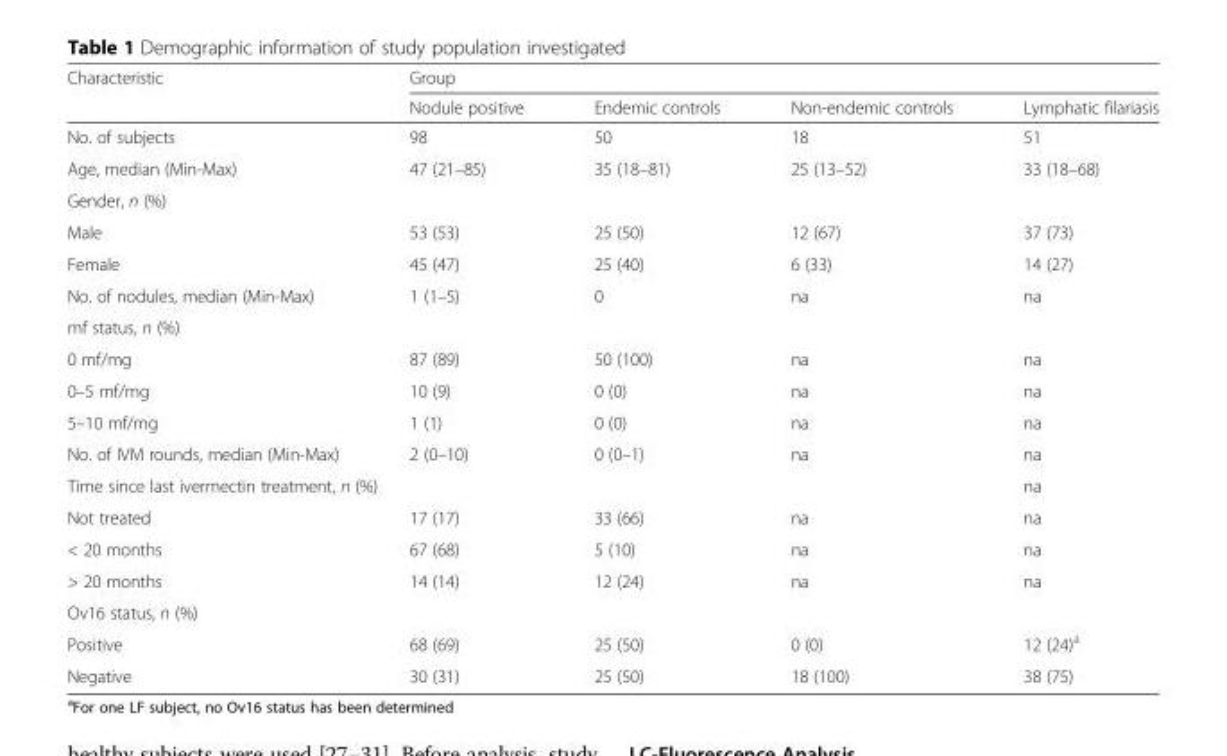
<table><thead><tr><td rowspan="2">Characteristic</td><td colspan="4">Group</td></tr><tr><td>Nodule positive</td><td>Endemic controls</td><td>Non-endemic controls</td><td>Lymphatic filariasis</td></tr></thead><tbody><tr><td>No. of subjects</td><td>98</td><td>50</td><td>18</td><td>51</td></tr><tr><td>Age, median (Min-Max)</td><td>47 (21–85)</td><td>35 (18–81)</td><td>25 (13–52)</td><td>33 (18–68)</td></tr><tr><td colspan="5">Gender, n (%)</td></tr><tr><td>Male</td><td>53 (53)</td><td>25 (50)</td><td>12 (67)</td><td>37 (73)</td></tr><tr><td>Female</td><td>45 (47)</td><td>25 (40)</td><td>6 (33)</td><td>14 (27)</td></tr><tr><td>No. of nodules, median (Min-Max)</td><td>1 (1–5)</td><td>0</td><td>na</td><td>na</td></tr><tr><td colspan="5">mf status, n (%)</td></tr><tr><td>0 mf/mg</td><td>87 (89)</td><td>50 (100)</td><td>na</td><td>na</td></tr><tr><td>0–5 mf/mg</td><td>10 (9)</td><td>0 (0)</td><td>na</td><td>na</td></tr><tr><td>5–10 mf/mg</td><td>1 (1)</td><td>0 (0)</td><td>na</td><td>na</td></tr><tr><td>No. of IVM rounds, median (Min-Max)</td><td>2 (0–10)</td><td>0 (0–1)</td><td>na</td><td>na</td></tr><tr><td colspan="4">Time since last ivermectin treatment, n (%)</td><td>na</td></tr><tr><td>Not treated</td><td>17 (17)</td><td>33 (66)</td><td>na</td><td>na</td></tr><tr><td>&lt; 20 months</td><td>67 (68)</td><td>5 (10)</td><td>na</td><td>na</td></tr><tr><td>&gt; 20 months</td><td>14 (14)</td><td>12 (24)</td><td>na</td><td>na</td></tr><tr><td colspan="5">Ov16 status, n (%)</td></tr><tr><td>Positive</td><td>68 (69)</td><td>25 (50)</td><td>0 (0)</td><td>12 (24)<sup>a</sup></td></tr><tr><td>Negative</td><td>30 (31)</td><td>25 (50)</td><td>18 (100)</td><td>38 (75)</td></tr></tbody></table>